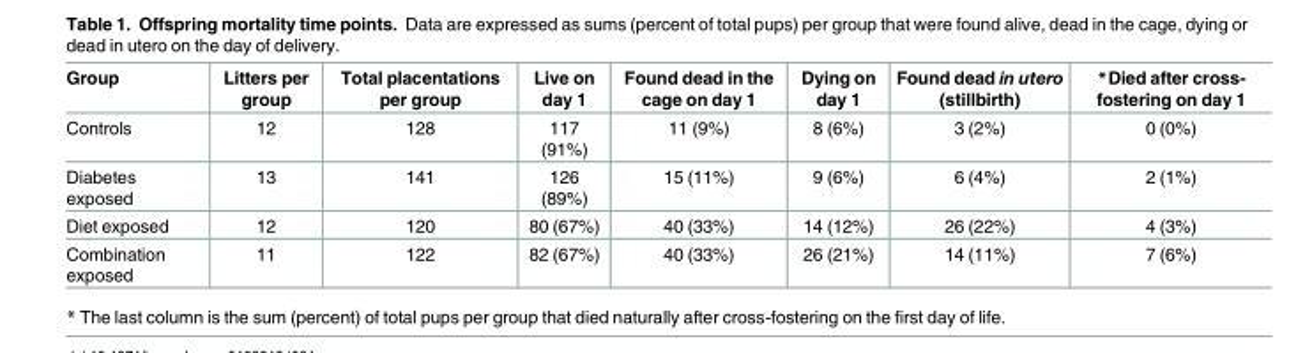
<table><thead><tr><td>Group</td><td>Litters per group</td><td>Total placentations per group</td><td>Live on day 1</td><td>Found dead in the cage on day 1</td><td>Dying on day 1</td><td>Found dead in utero (stillbirth)</td><td>*Died after cross- fostering on day 1</td></tr></thead><tbody><tr><td>Controls</td><td>12</td><td>128</td><td>117 (91%)</td><td>11 (9%)</td><td>8 (6%)</td><td>3 (2%)</td><td>0 (0%)</td></tr><tr><td>Diabetes exposed</td><td>13</td><td>141</td><td>126 (89%)</td><td>15 (11%)</td><td>9 (6%)</td><td>6 (4%)</td><td>2 (1%)</td></tr><tr><td>Diet exposed</td><td>12</td><td>120</td><td>80 (67%)</td><td>40 (33%)</td><td>14 (12%)</td><td>26 (22%)</td><td>4 (3%)</td></tr><tr><td>Combination exposed</td><td>11</td><td>122</td><td>82 (67%)</td><td>40 (33%)</td><td>26 (21%)</td><td>14 (11%)</td><td>7 (6%)</td></tr></tbody></table>